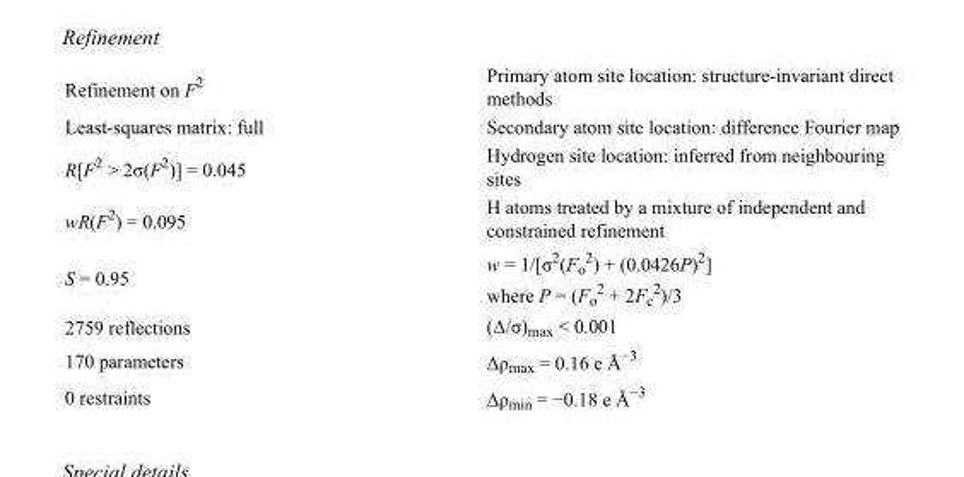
<table><tbody><tr><td>Refinement on F<sup>2</sup></td><td>Primary atom site location: structure-invariant direct methods</td></tr><tr><td>Least-squares matrix: full</td><td>Secondary atom site location: difference Fourier map</td></tr><tr><td>R[F<sup>2</sup> &gt; 2σ(F<sup>2</sup>)] = 0.045</td><td>Hydrogen site location: inferred from neighbouring sites</td></tr><tr><td>wR(F<sup>2</sup>) = 0.095</td><td>H atoms treated by a mixture of independent and constrained refinement</td></tr><tr><td>S = 0.95</td><td>w = 1/[σ<sup>2</sup>(F<sub>o</sub> <sup>2</sup>) + (0.0426P)<sup>2</sup>] where P = (F<sub>o</sub> <sup>2</sup> + 2F<sub>c</sub> <sup>2</sup>)/3</td></tr><tr><td>2759 reflections</td><td>(Δ/σ)<sub>max</sub> &lt; 0.001</td></tr><tr><td>170 parameters</td><td>Δρ<sub>max</sub> = 0.16 e Å<sup>−3</sup></td></tr><tr><td>0 restraints</td><td>Δρ<sub>min</sub> = −0.18 e Å<sup>−3</sup></td></tr></tbody></table>